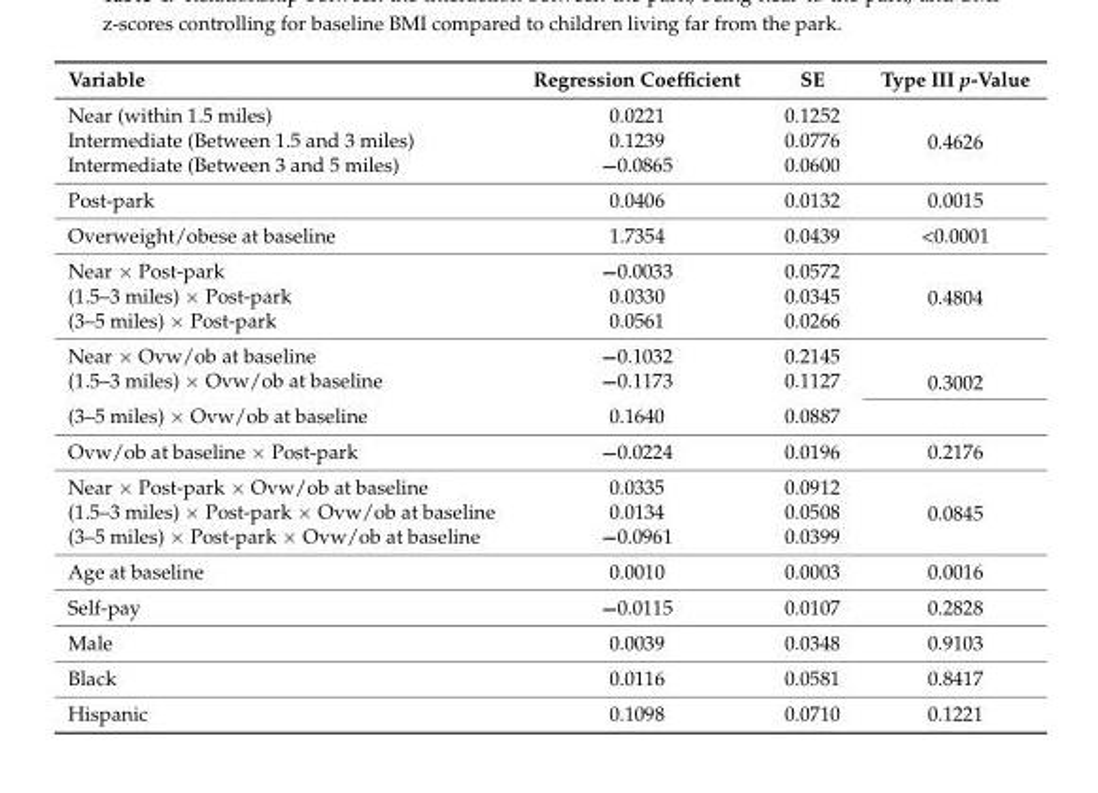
<table><thead><tr><td>Variable</td><td>Regression Coefficient</td><td>SE</td><td>Type III p-Value</td></tr></thead><tbody><tr><td>Near (within 1.5 miles)</td><td>0.0221</td><td>0.1252</td><td rowspan="3">0.4626</td></tr><tr><td>Intermediate (Between 1.5 and 3 miles)</td><td>0.1239</td><td>0.0776</td></tr><tr><td>Intermediate (Between 3 and 5 miles)</td><td>−0.0865</td><td>0.0600</td></tr><tr><td>Post-park</td><td>0.0406</td><td>0.0132</td><td>0.0015</td></tr><tr><td>Overweight/obese at baseline</td><td>1.7354</td><td>0.0439</td><td>&lt;0.0001</td></tr><tr><td>Near × Post-park</td><td>−0.0033</td><td>0.0572</td><td rowspan="3">0.4804</td></tr><tr><td>(1.5–3 miles) × Post-park</td><td>0.0330</td><td>0.0345</td></tr><tr><td>(3–5 miles) × Post-park</td><td>0.0561</td><td>0.0266</td></tr><tr><td>Near × Ovw/ob at baseline</td><td>−0.1032</td><td>0.2145</td><td rowspan="3">0.3002</td></tr><tr><td>(1.5–3 miles) × Ovw/ob at baseline</td><td>−0.1173</td><td>0.1127</td></tr><tr><td>(3–5 miles) × Ovw/ob at baseline</td><td>0.1640</td><td>0.0887</td></tr><tr><td>Ovw/ob at baseline × Post-park</td><td>−0.0224</td><td>0.0196</td><td>0.2176</td></tr><tr><td>Near × Post-park × Ovw/ob at baseline</td><td>0.0335</td><td>0.0912</td><td rowspan="3">0.0845</td></tr><tr><td>(1.5–3 miles) × Post-park × Ovw/ob at baseline</td><td>0.0134</td><td>0.0508</td></tr><tr><td>(3–5 miles) × Post-park × Ovw/ob at baseline</td><td>−0.0961</td><td>0.0399</td></tr><tr><td>Age at baseline</td><td>0.0010</td><td>0.0003</td><td>0.0016</td></tr><tr><td>Self-pay</td><td>−0.0115</td><td>0.0107</td><td>0.2828</td></tr><tr><td>Male</td><td>0.0039</td><td>0.0348</td><td>0.9103</td></tr><tr><td>Black</td><td>0.0116</td><td>0.0581</td><td>0.8417</td></tr><tr><td>Hispanic</td><td>0.1098</td><td>0.0710</td><td>0.1221</td></tr></tbody></table>